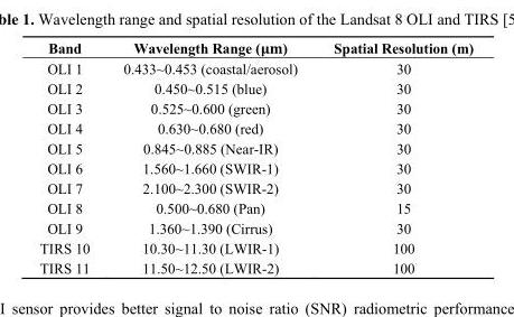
<table><thead><tr><td>Band</td><td>Wavelength Range (μm)</td><td>Spatial Resolution (m)</td></tr></thead><tbody><tr><td>OLI 1</td><td>0.433~0.453 (coastal/aerosol)</td><td>30</td></tr><tr><td>OLI 2</td><td>0.450~0.515 (blue)</td><td>30</td></tr><tr><td>OLI 3</td><td>0.525~0.600 (green)</td><td>30</td></tr><tr><td>OLI 4</td><td>0.630~0.680 (red)</td><td>30</td></tr><tr><td>OLI 5</td><td>0.845~0.885 (Near-IR)</td><td>30</td></tr><tr><td>OLI 6</td><td>1.560~1.660 (SWIR-1)</td><td>30</td></tr><tr><td>OLI 7</td><td>2.100~2.300 (SWIR-2)</td><td>30</td></tr><tr><td>OLI 8</td><td>0.500~0.680 (Pan)</td><td>15</td></tr><tr><td>OLI 9</td><td>1.360~1.390 (Cirrus)</td><td>30</td></tr><tr><td>TIRS 10</td><td>10.30~11.30 (LWIR-1)</td><td>100</td></tr><tr><td>TIRS 11</td><td>11.50~12.50 (LWIR-2)</td><td>100</td></tr></tbody></table>